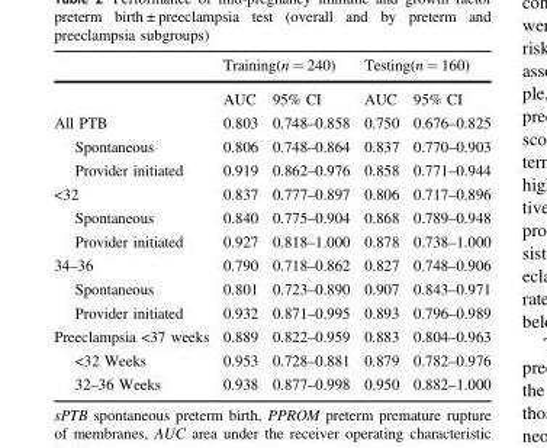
<table><thead><tr><td rowspan="2"></td><td colspan="2">Training(n = 240)</td><td colspan="2">Testing(n = 160)</td></tr><tr><td>AUC</td><td>95% CI</td><td>AUC</td><td>95% CI</td></tr></thead><tbody><tr><td>All PTB</td><td>0.803</td><td>0.748–0.858</td><td>0.750</td><td>0.676–0.825</td></tr><tr><td>Spontaneous</td><td>0.806</td><td>0.748–0.864</td><td>0.837</td><td>0.770–0.903</td></tr><tr><td>Provider initiated</td><td>0.919</td><td>0.862–0.976</td><td>0.858</td><td>0.771–0.944</td></tr><tr><td>&lt;32</td><td>0.837</td><td>0.777–0.897</td><td>0.806</td><td>0.717–0.896</td></tr><tr><td>Spontaneous</td><td>0.840</td><td>0.775–0.904</td><td>0.868</td><td>0.789–0.948</td></tr><tr><td>Provider initiated</td><td>0.927</td><td>0.818–1.000</td><td>0.878</td><td>0.738–1.000</td></tr><tr><td>34–36</td><td>0.790</td><td>0.718–0.862</td><td>0.827</td><td>0.748–0.906</td></tr><tr><td>Spontaneous</td><td>0.801</td><td>0.723–0.890</td><td>0.907</td><td>0.843–0.971</td></tr><tr><td>Provider initiated</td><td>0.932</td><td>0.871–0.995</td><td>0.893</td><td>0.796–0.989</td></tr><tr><td>Preeclampsia &lt;37 weeks</td><td>0.889</td><td>0.822–0.959</td><td>0.883</td><td>0.804–0.963</td></tr><tr><td>&lt;32 Weeks</td><td>0.953</td><td>0.728–0.881</td><td>0.879</td><td>0.782–0.976</td></tr><tr><td>32–36 Weeks</td><td>0.938</td><td>0.877–0.998</td><td>0.950</td><td>0.882–1.000</td></tr></tbody></table>